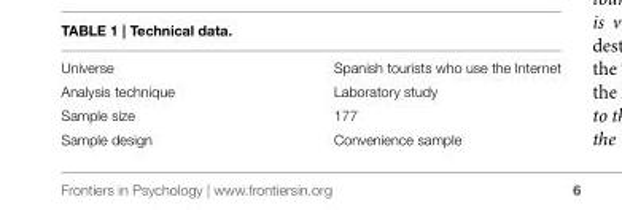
<table><tbody><tr><td>Universe</td><td>Spanish tourists who use the Internet</td></tr><tr><td>Analysis technique</td><td>Laboratory study</td></tr><tr><td>Sample size</td><td>177</td></tr><tr><td>Sample design</td><td>Convenience sample</td></tr></tbody></table>